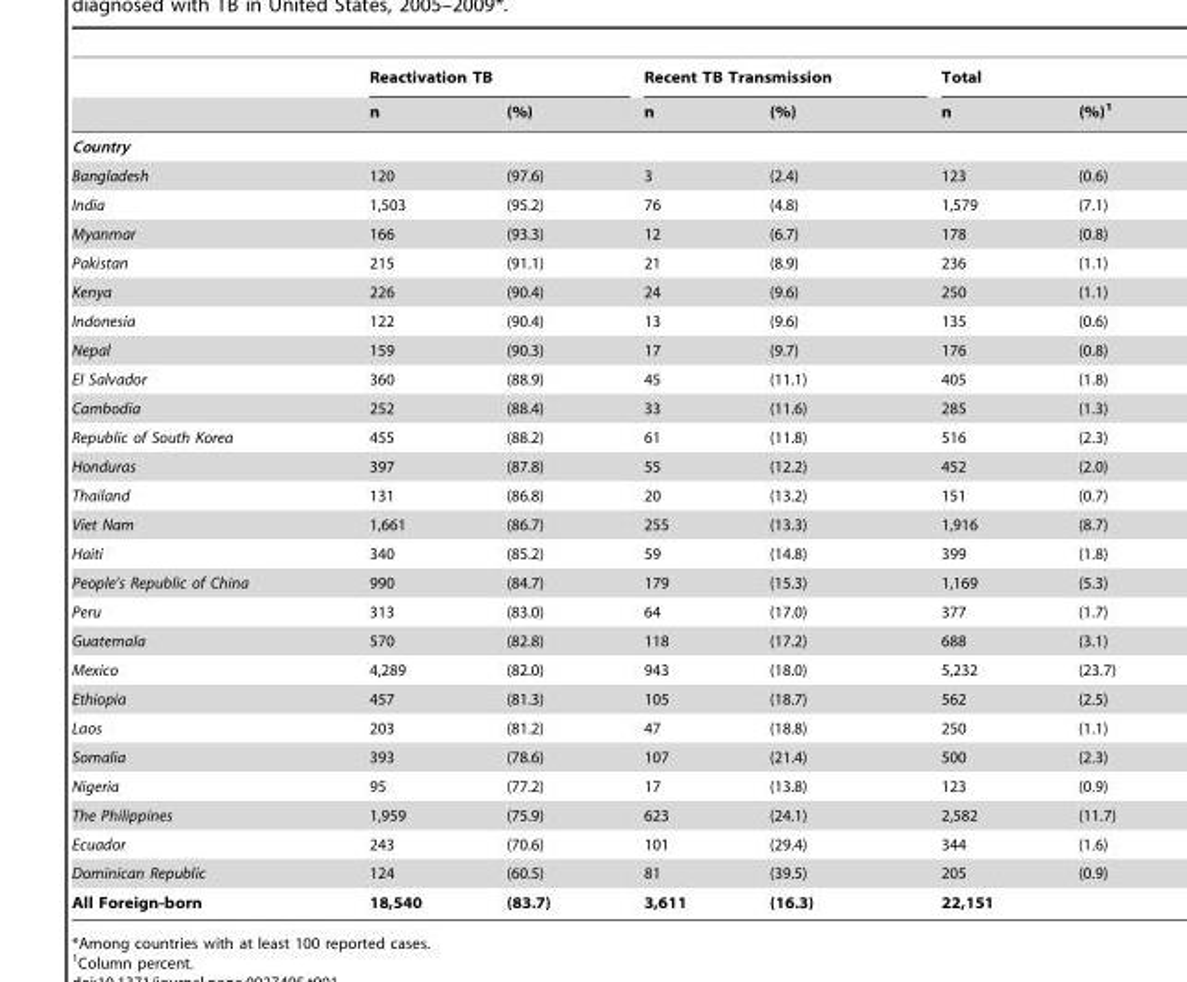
<table><thead><tr><td rowspan="2"></td><td colspan="2">Reactivation TB</td><td colspan="2">Recent TB Transmission</td><td colspan="2">Total</td></tr><tr><td>n</td><td>(%)</td><td>n</td><td>(%)</td><td>n</td><td>(%)<sup>1</sup></td></tr></thead><tbody><tr><td colspan="7">Country</td></tr><tr><td>Bangladesh</td><td>120</td><td>(97.6)</td><td>3</td><td>(2.4)</td><td>123</td><td>(0.6)</td></tr><tr><td>India</td><td>1,503</td><td>(95.2)</td><td>76</td><td>(4.8)</td><td>1,579</td><td>(7.1)</td></tr><tr><td>Myanmar</td><td>166</td><td>(93.3)</td><td>12</td><td>(6.7)</td><td>178</td><td>(0.8)</td></tr><tr><td>Pakistan</td><td>215</td><td>(91.1)</td><td>21</td><td>(8.9)</td><td>236</td><td>(1.1)</td></tr><tr><td>Kenya</td><td>226</td><td>(90.4)</td><td>24</td><td>(9.6)</td><td>250</td><td>(1.1)</td></tr><tr><td>Indonesia</td><td>122</td><td>(90.4)</td><td>13</td><td>(9.6)</td><td>135</td><td>(0.6)</td></tr><tr><td>Nepal</td><td>159</td><td>(90.3)</td><td>17</td><td>(9.7)</td><td>176</td><td>(0.8)</td></tr><tr><td>El Salvador</td><td>360</td><td>(88.9)</td><td>45</td><td>(11.1)</td><td>405</td><td>(1.8)</td></tr><tr><td>Cambodia</td><td>252</td><td>(88.4)</td><td>33</td><td>(11.6)</td><td>285</td><td>(1.3)</td></tr><tr><td>Republic of South Korea</td><td>455</td><td>(88.2)</td><td>61</td><td>(11.8)</td><td>516</td><td>(2.3)</td></tr><tr><td>Honduras</td><td>397</td><td>(87.8)</td><td>55</td><td>(12.2)</td><td>452</td><td>(2.0)</td></tr><tr><td>Thailand</td><td>131</td><td>(86.8)</td><td>20</td><td>(13.2)</td><td>151</td><td>(0.7)</td></tr><tr><td>Viet Nam</td><td>1,661</td><td>(86.7)</td><td>255</td><td>(13.3)</td><td>1,916</td><td>(8.7)</td></tr><tr><td>Haiti</td><td>340</td><td>(85.2)</td><td>59</td><td>(14.8)</td><td>399</td><td>(1.8)</td></tr><tr><td>People’s Republic of China</td><td>990</td><td>(84.7)</td><td>179</td><td>(15.3)</td><td>1,169</td><td>(5.3)</td></tr><tr><td>Peru</td><td>313</td><td>(83.0)</td><td>64</td><td>(17.0)</td><td>377</td><td>(1.7)</td></tr><tr><td>Guatemala</td><td>570</td><td>(82.8)</td><td>118</td><td>(17.2)</td><td>688</td><td>(3.1)</td></tr><tr><td>Mexico</td><td>4,289</td><td>(82.0)</td><td>943</td><td>(18.0)</td><td>5,232</td><td>(23.7)</td></tr><tr><td>Ethiopia</td><td>457</td><td>(81.3)</td><td>105</td><td>(18.7)</td><td>562</td><td>(2.5)</td></tr><tr><td>Laos</td><td>203</td><td>(81.2)</td><td>47</td><td>(18.8)</td><td>250</td><td>(1.1)</td></tr><tr><td>Somalia</td><td>393</td><td>(78.6)</td><td>107</td><td>(21.4)</td><td>500</td><td>(2.3)</td></tr><tr><td>Nigeria</td><td>95</td><td>(77.2)</td><td>17</td><td>(13.8)</td><td>123</td><td>(0.9)</td></tr><tr><td>The Philippines</td><td>1,959</td><td>(75.9)</td><td>623</td><td>(24.1)</td><td>2,582</td><td>(11.7)</td></tr><tr><td>Ecuador</td><td>243</td><td>(70.6)</td><td>101</td><td>(29.4)</td><td>344</td><td>(1.6)</td></tr><tr><td>Dominican Republic</td><td>124</td><td>(60.5)</td><td>81</td><td>(39.5)</td><td>205</td><td>(0.9)</td></tr><tr><td>All Foreign-born</td><td>18,540</td><td>(83.7)</td><td>3,611</td><td>(16.3)</td><td>22,151</td><td></td></tr></tbody></table>